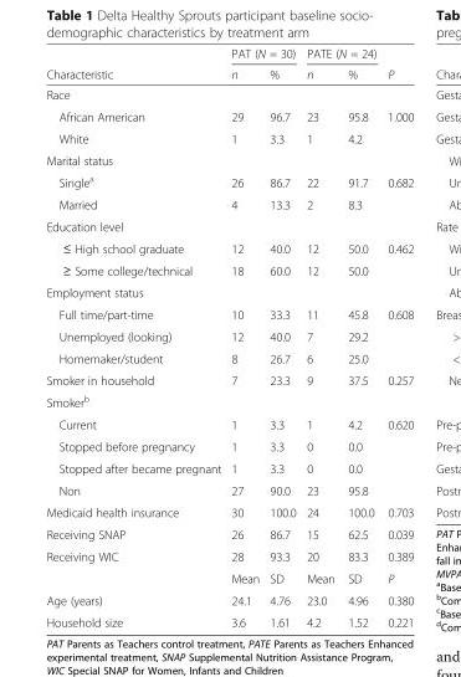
<table><thead><tr><td rowspan="2">Characteristic</td><td colspan="2">PAT (N = 30)</td><td colspan="2">PATE (N = 24)</td><td rowspan="2">P</td></tr><tr><td>n</td><td>%</td><td>n</td><td>%</td></tr></thead><tbody><tr><td colspan="6">Race</td></tr><tr><td>African American</td><td>29</td><td>96.7</td><td>23</td><td>95.8</td><td>1.000</td></tr><tr><td>White</td><td>1</td><td>3.3</td><td>1</td><td>4.2</td><td></td></tr><tr><td colspan="6">Marital status</td></tr><tr><td>Single<sup>a</sup></td><td>26</td><td>86.7</td><td>22</td><td>91.7</td><td>0.682</td></tr><tr><td>Married</td><td>4</td><td>13.3</td><td>2</td><td>8.3</td><td></td></tr><tr><td colspan="6">Education level</td></tr><tr><td>≤ High school graduate</td><td>12</td><td>40.0</td><td>12</td><td>50.0</td><td rowspan="2">0.462</td></tr><tr><td>≥ Some college/technical</td><td>18</td><td>60.0</td><td>12</td><td>50.0</td></tr><tr><td colspan="6">Employment status</td></tr><tr><td>Full time/part-time</td><td>10</td><td>33.3</td><td>11</td><td>45.8</td><td rowspan="3">0.608</td></tr><tr><td>Unemployed (looking)</td><td>12</td><td>40.0</td><td>7</td><td>29.2</td></tr><tr><td>Homemaker/student</td><td>8</td><td>26.7</td><td>6</td><td>25.0</td></tr><tr><td>Smoker in household</td><td>7</td><td>23.3</td><td>9</td><td>37.5</td><td>0.257</td></tr><tr><td colspan="6">Smoker<sup>b</sup></td></tr><tr><td>Current</td><td>1</td><td>3.3</td><td>1</td><td>4.2</td><td rowspan="4">0.620</td></tr><tr><td>Stopped before pregnancy</td><td>1</td><td>3.3</td><td>0</td><td>0.0</td></tr><tr><td>Stopped after became pregnant</td><td>1</td><td>3.3</td><td>0</td><td>0.0</td></tr><tr><td>Non</td><td>27</td><td>90.0</td><td>23</td><td>95.8</td></tr><tr><td>Medicaid health insurance</td><td>30</td><td>100.0</td><td>24</td><td>100.0</td><td>0.703</td></tr><tr><td>Receiving SNAP</td><td>26</td><td>86.7</td><td>15</td><td>62.5</td><td>0.039</td></tr><tr><td rowspan="2">Receiving WIC</td><td>28</td><td>93.3</td><td>20</td><td>83.3</td><td>0.389</td></tr><tr><td>Mean</td><td>SD</td><td>Mean</td><td>SD</td><td>P</td></tr><tr><td>Age (years)</td><td>24.1</td><td>4.76</td><td>23.0</td><td>4.96</td><td>0.380</td></tr><tr><td>Household size</td><td>3.6</td><td>1.61</td><td>4.2</td><td>1.52</td><td>0.221</td></tr></tbody></table>